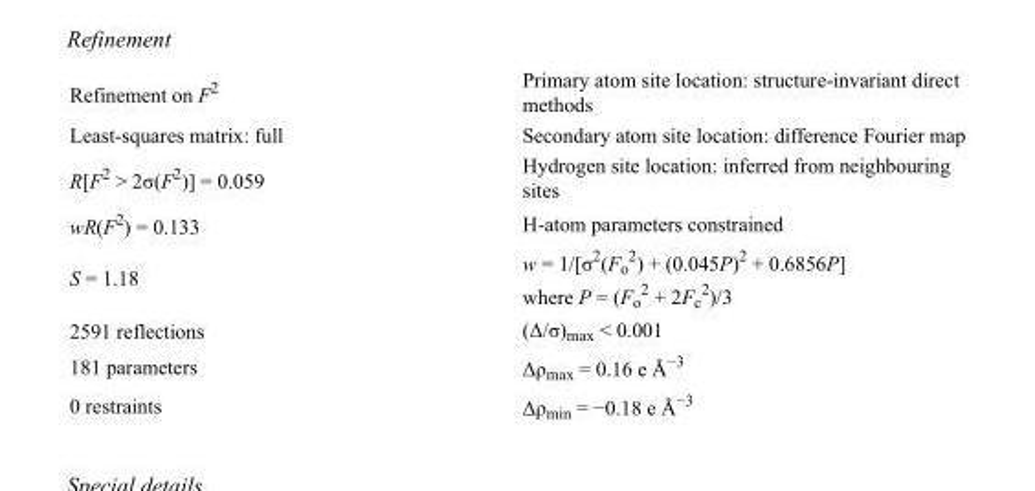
<table><tbody><tr><td>Refinement on F<sup>2</sup></td><td>Primary atom site location: structure-invariant direct methods</td></tr><tr><td>Least-squares matrix: full</td><td>Secondary atom site location: difference Fourier map</td></tr><tr><td>R[F<sup>2</sup> &gt; 2σ(F<sup>2</sup>)] = 0.059</td><td>Hydrogen site location: inferred from neighbouring sites</td></tr><tr><td>wR(F<sup>2</sup>) = 0.133</td><td>H-atom parameters constrained</td></tr><tr><td>S = 1.18</td><td>w = 1/[σ<sup>2</sup>(F<sub>o</sub> <sup>2</sup>) + (0.045P)<sup>2</sup> + 0.6856P] where P = (F<sub>o</sub> <sup>2</sup> + 2F<sub>c</sub> <sup>2</sup>)/3</td></tr><tr><td>2591 reflections</td><td>(Δ/σ)<sub>max</sub> &lt; 0.001</td></tr><tr><td>181 parameters</td><td>Δρ<sub>max</sub> = 0.16 e Å<sup>−3</sup></td></tr><tr><td>0 restraints</td><td>Δρ<sub>min</sub> = −0.18 e Å<sup>−3</sup></td></tr></tbody></table>